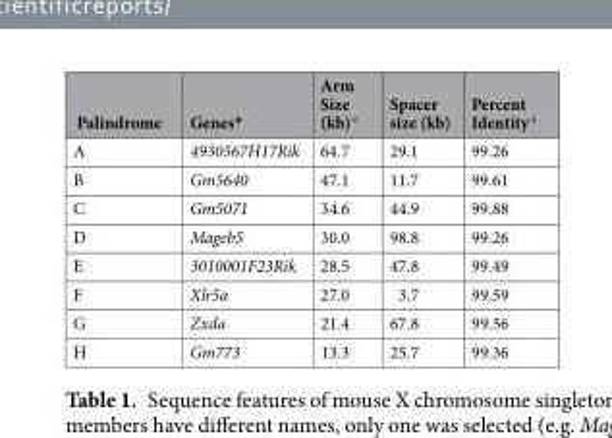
<table><thead><tr><td>Palindrome</td><td>Genes*</td><td>Arm Size (kb)<sup>+</sup></td><td>Spacer size (kb)</td><td>Percent Identity<sup>+</sup></td></tr></thead><tbody><tr><td>A</td><td>4930567H17Rik</td><td>64.7</td><td>29.1</td><td>99.26</td></tr><tr><td>B</td><td>Gm5640</td><td>47.1</td><td>11.7</td><td>99.61</td></tr><tr><td>C</td><td>Gm5071</td><td>34.6</td><td>44.9</td><td>99.88</td></tr><tr><td>D</td><td>Mageb5</td><td>30.0</td><td>98.8</td><td>99.26</td></tr><tr><td>E</td><td>3010001F23Rik</td><td>28.5</td><td>47.8</td><td>99.49</td></tr><tr><td>F</td><td>Xlr5a</td><td>27.0</td><td>3.7</td><td>99.59</td></tr><tr><td>G</td><td>Zxda</td><td>21.4</td><td>67.8</td><td>99.56</td></tr><tr><td>H</td><td>Gm773</td><td>13.3</td><td>25.7</td><td>99.36</td></tr></tbody></table>